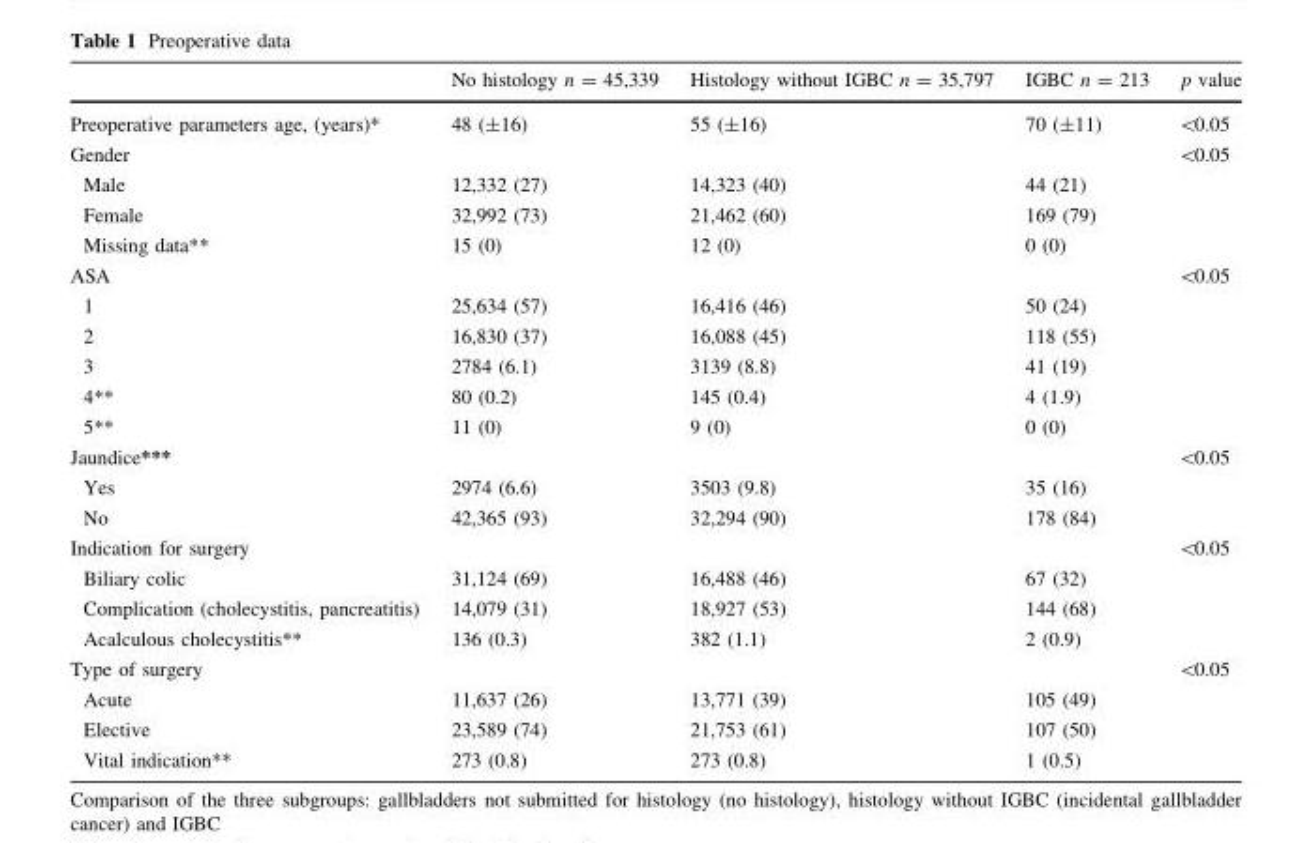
<table><thead><tr><td></td><td>No histology n = 45,339</td><td>Histology without IGBC n = 35,797</td><td>IGBC n = 213</td><td>p value</td></tr></thead><tbody><tr><td>Preoperative parameters age, (years)*</td><td>48 (±16)</td><td>55 (±16)</td><td>70 (±11)</td><td>&lt;0.05</td></tr><tr><td>Gender</td><td></td><td></td><td></td><td>&lt;0.05</td></tr><tr><td>Male</td><td>12,332 (27)</td><td>14,323 (40)</td><td>44 (21)</td><td></td></tr><tr><td>Female</td><td>32,992 (73)</td><td>21,462 (60)</td><td>169 (79)</td><td></td></tr><tr><td>Missing data**</td><td>15 (0)</td><td>12 (0)</td><td>0 (0)</td><td></td></tr><tr><td>ASA</td><td></td><td></td><td></td><td>&lt;0.05</td></tr><tr><td>1</td><td>25,634 (57)</td><td>16,416 (46)</td><td>50 (24)</td><td></td></tr><tr><td>2</td><td>16,830 (37)</td><td>16,088 (45)</td><td>118 (55)</td><td></td></tr><tr><td>3</td><td>2784 (6.1)</td><td>3139 (8.8)</td><td>41 (19)</td><td></td></tr><tr><td>4**</td><td>80 (0.2)</td><td>145 (0.4)</td><td>4 (1.9)</td><td></td></tr><tr><td>5**</td><td>11 (0)</td><td>9 (0)</td><td>0 (0)</td><td></td></tr><tr><td>Jaundice***</td><td></td><td></td><td></td><td>&lt;0.05</td></tr><tr><td>Yes</td><td>2974 (6.6)</td><td>3503 (9.8)</td><td>35 (16)</td><td></td></tr><tr><td>No</td><td>42,365 (93)</td><td>32,294 (90)</td><td>178 (84)</td><td></td></tr><tr><td>Indication for surgery</td><td></td><td></td><td></td><td>&lt;0.05</td></tr><tr><td>Biliary colic</td><td>31,124 (69)</td><td>16,488 (46)</td><td>67 (32)</td><td></td></tr><tr><td>Complication (cholecystitis, pancreatitis)</td><td>14,079 (31)</td><td>18,927 (53)</td><td>144 (68)</td><td></td></tr><tr><td>Acalculous cholecystitis**</td><td>136 (0.3)</td><td>382 (1.1)</td><td>2 (0.9)</td><td></td></tr><tr><td>Type of surgery</td><td></td><td></td><td></td><td>&lt;0.05</td></tr><tr><td>Acute</td><td>11,637 (26)</td><td>13,771 (39)</td><td>105 (49)</td><td></td></tr><tr><td>Elective</td><td>23,589 (74)</td><td>21,753 (61)</td><td>107 (50)</td><td></td></tr><tr><td>Vital indication**</td><td>273 (0.8)</td><td>273 (0.8)</td><td>1 (0.5)</td><td></td></tr></tbody></table>